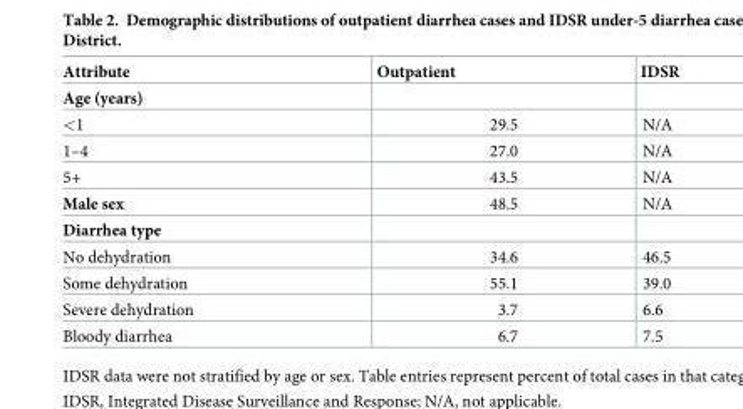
<table><thead><tr><td>Attribute</td><td>Outpatient</td><td>IDSR</td></tr></thead><tbody><tr><td colspan="3">Age (years)</td></tr><tr><td>&lt;1</td><td>29.5</td><td>N/A</td></tr><tr><td>1–4</td><td>27.0</td><td>N/A</td></tr><tr><td>5+</td><td>43.5</td><td>N/A</td></tr><tr><td>Male sex</td><td>48.5</td><td>N/A</td></tr><tr><td colspan="3">Diarrhea type</td></tr><tr><td>No dehydration</td><td>34.6</td><td>46.5</td></tr><tr><td>Some dehydration</td><td>55.1</td><td>39.0</td></tr><tr><td>Severe dehydration</td><td>3.7</td><td>6.6</td></tr><tr><td>Bloody diarrhea</td><td>6.7</td><td>7.5</td></tr></tbody></table>